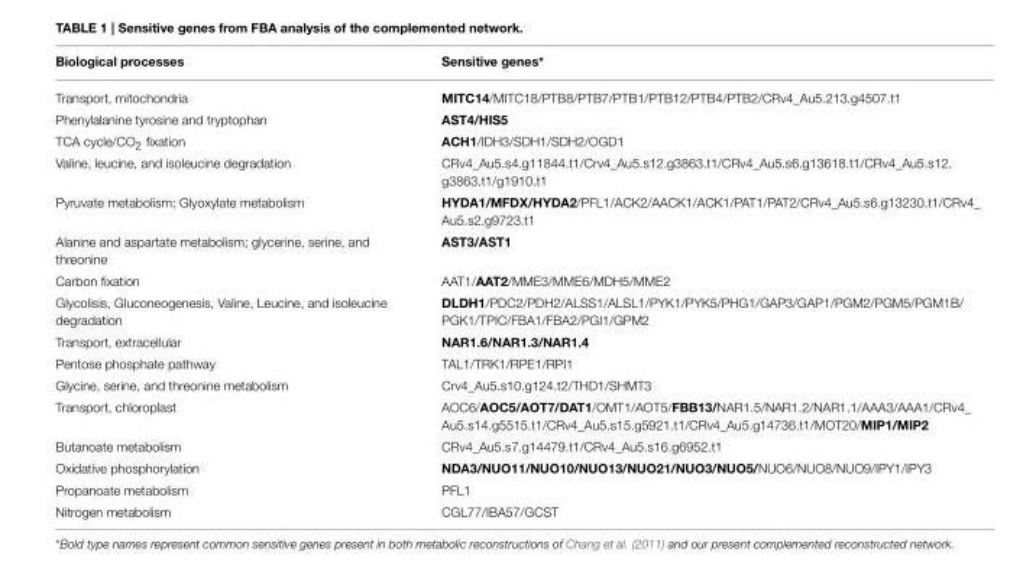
<table><thead><tr><td>Biological processes</td><td>Sensitive genes*</td></tr></thead><tbody><tr><td>Transport, mitochondria</td><td>MITC14/MITC18/PTB8/PTB7/PTB1/PTB12/PTB4/PTB2/CRv4_Au5.213.g4507.t1</td></tr><tr><td>Phenylalanine tyrosine and tryptophan</td><td>AST4/HIS5</td></tr><tr><td>TCA cycle/CO<sub>2</sub> fixation</td><td>ACH1/IDH3/SDH1/SDH2/OGD1</td></tr><tr><td>Valine, leucine, and isoleucine degradation</td><td>CRv4_Au5.s4.g11844.t1/Crv4_Au5.s12.g3863.t1/CRv4_Au5.s6.g13618.t1/CRv4_Au5.s12. g3863.t1/g1910.t1</td></tr><tr><td>Pyruvate metabolism; Glyoxylate metabolism</td><td>HYDA1/MFDX/HYDA2/PFL1/ACK2/AACK1/ACK1/PAT1/PAT2/CRv4_Au5.s6.g13230.t1/CRv4_ Au5.s2.g9723.t1</td></tr><tr><td>Alanine and aspartate metabolism; glycerine, serine, and threonine</td><td>AST3/AST1</td></tr><tr><td>Carbon fixation</td><td>AAT1/AAT2/MME3/MME6/MDH5/MME2</td></tr><tr><td>Glycolisis, Gluconeogenesis, Valine, Leucine, and isoleucine degradation</td><td>DLDH1/PDC2/PDH2/ALSS1/ALSL1/PYK1/PYK5/PHG1/GAP3/GAP1/PGM2/PGM5/PGM1B/ PGK1/TPIC/FBA1/FBA2/PGI1/GPM2</td></tr><tr><td>Transport, extracellular</td><td>NAR1.6/NAR1.3/NAR1.4</td></tr><tr><td>Pentose phosphate pathway</td><td>TAL1/TRK1/RPE1/RPI1</td></tr><tr><td>Glycine, serine, and threonine metabolism</td><td>Crv4_Au5.s10.g124.t2/THD1/SHMT3</td></tr><tr><td>Transport, chloroplast</td><td>AOC6/AOC5/AOT7/DAT1/OMT1/AOT5/FBB13/NAR1.5/NAR1.2/NAR1.1/AAA3/AAA1/CRv4_ Au5.s14.g5515.t1/CRv4_Au5.s15.g5921.t1/CRv4_Au5.g14736.t1/MOT20/MIP1/MIP2</td></tr><tr><td>Butanoate metabolism</td><td>CRv4_Au5.s7.g14479.t1/CRv4_Au5.s16.g6952.t1</td></tr><tr><td>Oxidative phosphorylation</td><td>NDA3/NUO11/NUO10/NUO13/NUO21/NUO3/NUO5/NUO6/NUO8/NUO9/IPY1/IPY3</td></tr><tr><td>Propanoate metabolism</td><td>PFL1</td></tr><tr><td>Nitrogen metabolism</td><td>CGL77/IBA57/GCST</td></tr></tbody></table>